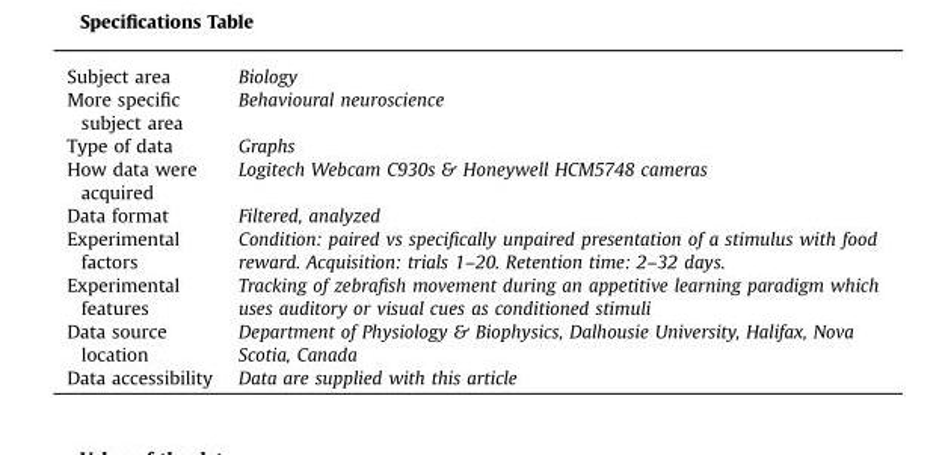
<table><tbody><tr><td>Subject area</td><td>Biology</td></tr><tr><td>More specific subject area</td><td>Behavioural neuroscience</td></tr><tr><td>Type of data</td><td>Graphs</td></tr><tr><td>How data were acquired</td><td>Logitech Webcam C930s &amp; Honeywell HCM5748 cameras</td></tr><tr><td>Data format</td><td>Filtered, analyzed</td></tr><tr><td>Experimental factors</td><td>Condition: paired vs specifically unpaired presentation of a stimulus with food reward. Acquisition: trials 1–20. Retention time: 2–32 days.</td></tr><tr><td>Experimental features</td><td>Tracking of zebrafish movement during an appetitive learning paradigm which uses auditory or visual cues as conditioned stimuli</td></tr><tr><td>Data source location</td><td>Department of Physiology &amp; Biophysics, Dalhousie University, Halifax, Nova Scotia, Canada</td></tr><tr><td>Data accessibility</td><td>Data are supplied with this article</td></tr></tbody></table>